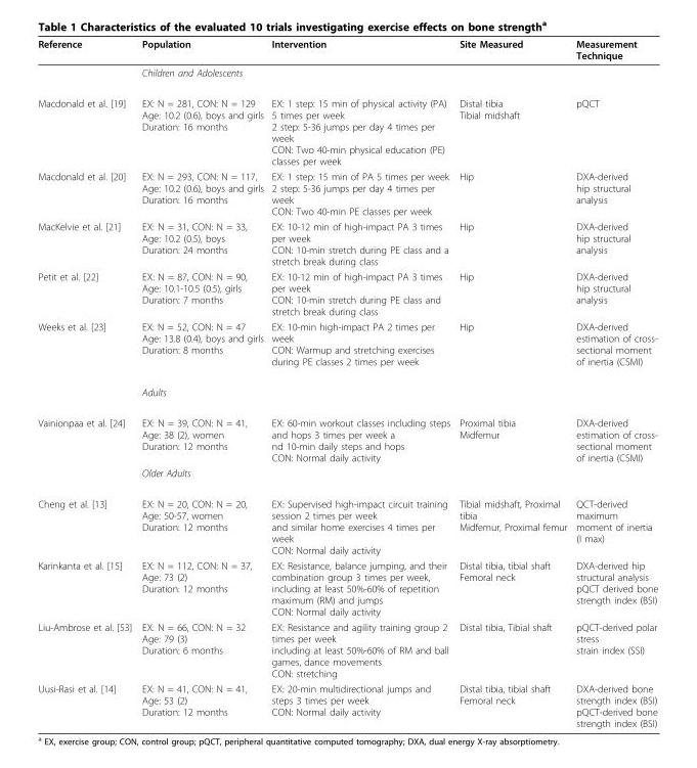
<table><thead><tr><td>Reference</td><td>Population</td><td>Intervention</td><td>Site Measured</td><td>Measurement Technique</td></tr></thead><tbody><tr><td></td><td>Children and Adolescents</td><td></td><td></td><td></td></tr><tr><td>Macdonald et al. [19]</td><td>EX: N = 281, CON: N = 129 Age: 10.2 (0.6), boys and girls Duration: 16 months</td><td>EX: 1 step: 15 min of physical activity (PA) 5 times per week 2 step: 5-36 jumps per day 4 times per week CON: Two 40-min physical education (PE) classes per week</td><td>Distal tibia Tibial midshaft</td><td>pQCT</td></tr><tr><td>Macdonald et al. [20]</td><td>EX: N = 293, CON: N = 117, Age: 10.2 (0.6), boys and girls Duration: 16 months</td><td>EX: 1 step: 15 min of PA 5 times per week 2 step: 5-36 jumps per day 4 times per week CON: Two 40-min PE classes per week</td><td>Hip</td><td>DXA-derived hip structural analysis</td></tr><tr><td>MacKelvie et al. [21]</td><td>EX: N = 31, CON: N = 33, Age: 10.2 (0.5), boys Duration: 24 months</td><td>EX: 10-12 min of high-impact PA 3 times per week CON: 10-min stretch during PE class and a stretch break during class</td><td>Hip</td><td>DXA-derived hip structural analysis</td></tr><tr><td>Petit et al. [22]</td><td>EX: N = 87, CON: N = 90, Age: 10.1-10.5 (0.5), girls Duration: 7 months</td><td>EX: 10-12 min of high-impact PA 3 times per week CON: 10-min stretch during PE class and stretch break during class</td><td>Hip</td><td>DXA-derived hip structural analysis</td></tr><tr><td rowspan="2">Weeks et al. [23]</td><td>EX: N = 52, CON: N = 47 Age: 13.8 (0.4), boys and girls Duration: 8 months</td><td>EX: 10-min high-impact PA 2 times per week CON: Warmup and stretching exercises during PE classes 2 times per week</td><td>Hip</td><td>DXA-derived estimation of cross- sectional moment of inertia (CSMI)</td></tr><tr><td>Adults</td><td></td><td></td><td></td></tr><tr><td rowspan="2">Vainionpaa et al. [24]</td><td>EX: N = 39, CON: N = 41, Age: 38 (2), women Duration: 12 months</td><td>EX: 60-min workout classes including steps and hops 3 times per week a nd 10-min daily steps and hops CON: Normal daily activity</td><td>Proximal tibia Midfemur</td><td>DXA-derived estimation of cross- sectional moment of inertia (CSMI)</td></tr><tr><td>Older Adults</td><td></td><td></td><td></td></tr><tr><td>Cheng et al. [13]</td><td>EX: N = 20, CON: N = 20, Age: 50-57, women Duration: 12 months</td><td>EX: Supervised high-impact circuit training session 2 times per week and similar home exercises 4 times per week CON: Normal daily activity</td><td>Tibial midshaft, Proximal tibia Midfemur, Proximal femur</td><td>QCT-derived maximum moment of inertia (I max)</td></tr><tr><td>Karinkanta et al. [15]</td><td>EX: N = 112, CON: N = 37, Age: 73 (2) Duration: 12 months</td><td>EX: Resistance, balance jumping, and their combination group 3 times per week, including at least 50%-60% of repetition maximum (RM) and jumps CON: Normal daily activity</td><td>Distal tibia, tibial shaft Femoral neck</td><td>DXA-derived hip structural analysis pQCT derived bone strength index (BSI)</td></tr><tr><td>Liu-Ambrose et al. [53]</td><td>EX: N = 66, CON: N = 32 Age: 79 (3) Duration: 6 months</td><td>EX: Resistance and agility training group 2 times per week including at least 50%-60% of RM and ball games, dance movements CON: stretching</td><td>Distal tibia, Tibial shaft</td><td>pQCT-derived polar stress strain index (SSI)</td></tr><tr><td>Uusi-Rasi et al. [14]</td><td>EX: N = 41, CON: N = 41, Age: 53 (2) Duration: 12 months</td><td>EX: 20-min multidirectional jumps and steps 3 times per week CON: Normal daily activity</td><td>Distal tibia, tibial shaft Femoral neck</td><td>DXA-derived bone strength index (BSI) pQCT-derived bone strength index (BSI)</td></tr></tbody></table>